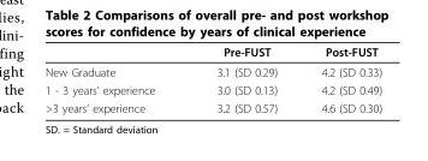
<table><thead><tr><td></td><td>Pre-FUST</td><td>Post-FUST</td></tr></thead><tbody><tr><td>New Graduate</td><td>3.1 (SD 0.29)</td><td>4.2 (SD 0.33)</td></tr><tr><td>1 - 3 years’ experience</td><td>3.0 (SD 0.13)</td><td>4.2 (SD 0.49)</td></tr><tr><td>&gt;3 years’ experience</td><td>3.2 (SD 0.57)</td><td>4.6 (SD 0.30)</td></tr></tbody></table>